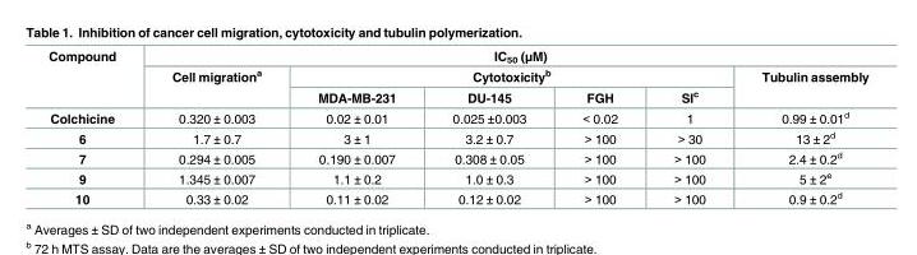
<table><thead><tr><td rowspan="3">Compound</td><td colspan="6">IC<sub>50</sub> (μM)</td></tr><tr><td rowspan="2">Cell migration<sup>a</sup></td><td colspan="4">Cytotoxicity<sup>b</sup></td><td rowspan="2">Tubulin assembly</td></tr><tr><td>MDA-MB-231</td><td>DU-145</td><td>FGH</td><td>SI<sup>c</sup></td></tr></thead><tbody><tr><td>Colchicine</td><td>0.320 ± 0.003</td><td>0.02 ± 0.01</td><td>0.025 ±0.003</td><td>&lt; 0.02</td><td>1</td><td>0.99 ± 0.01<sup>d</sup></td></tr><tr><td>6</td><td>1.7 ± 0.7</td><td>3 ± 1</td><td>3.2 ± 0.7</td><td>&gt; 100</td><td>&gt; 30</td><td>13 ± 2<sup>d</sup></td></tr><tr><td>7</td><td>0.294 ± 0.005</td><td>0.190 ± 0.007</td><td>0.308 ± 0.05</td><td>&gt; 100</td><td>&gt; 100</td><td>2.4 ± 0.2<sup>d</sup></td></tr><tr><td>9</td><td>1.345 ± 0.007</td><td>1.1 ± 0.2</td><td>1.0 ± 0.3</td><td>&gt; 100</td><td>&gt; 100</td><td>5 ± 2<sup>e</sup></td></tr><tr><td>10</td><td>0.33 ± 0.02</td><td>0.11 ± 0.02</td><td>0.12 ± 0.02</td><td>&gt; 100</td><td>&gt; 100</td><td>0.9 ± 0.2<sup>d</sup></td></tr></tbody></table>